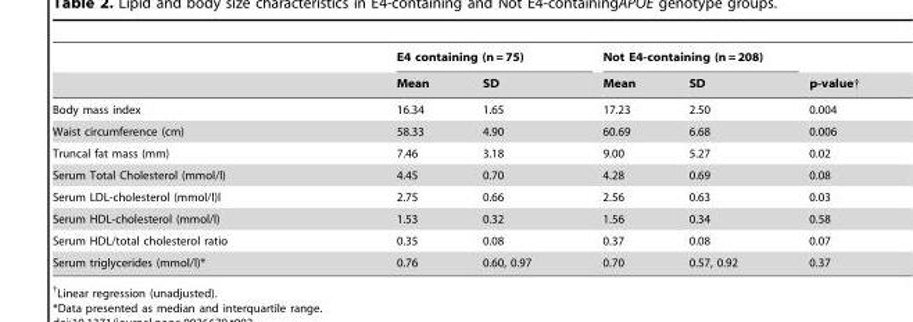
<table><thead><tr><td rowspan="2"></td><td colspan="2">E4 containing (n = 75)</td><td colspan="2">Not E4-containing (n = 208)</td><td rowspan="2">p-value†</td></tr><tr><td>Mean</td><td>SD</td><td>Mean</td><td>SD</td></tr></thead><tbody><tr><td>Body mass index</td><td>16.34</td><td>1.65</td><td>17.23</td><td>2.50</td><td>0.004</td></tr><tr><td>Waist circumference (cm)</td><td>58.33</td><td>4.90</td><td>60.69</td><td>6.68</td><td>0.006</td></tr><tr><td>Truncal fat mass (mm)</td><td>7.46</td><td>3.18</td><td>9.00</td><td>5.27</td><td>0.02</td></tr><tr><td>Serum Total Cholesterol (mmol/l)</td><td>4.45</td><td>0.70</td><td>4.28</td><td>0.69</td><td>0.08</td></tr><tr><td>Serum LDL-cholesterol (mmol/l)l</td><td>2.75</td><td>0.66</td><td>2.56</td><td>0.63</td><td>0.03</td></tr><tr><td>Serum HDL-cholesterol (mmol/l)</td><td>1.53</td><td>0.32</td><td>1.56</td><td>0.34</td><td>0.58</td></tr><tr><td>Serum HDL/total cholesterol ratio</td><td>0.35</td><td>0.08</td><td>0.37</td><td>0.08</td><td>0.07</td></tr><tr><td>Serum triglycerides (mmol/l)*</td><td>0.76</td><td>0.60, 0.97</td><td>0.70</td><td>0.57, 0.92</td><td>0.37</td></tr></tbody></table>